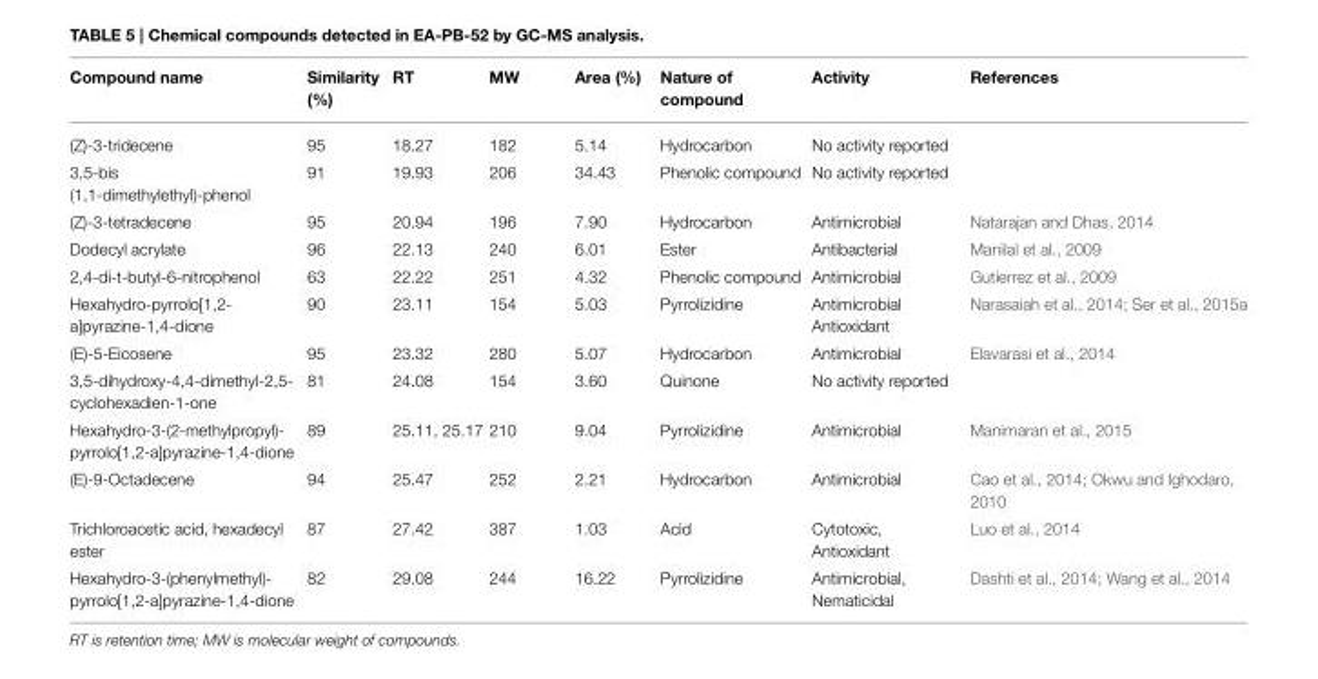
<table><thead><tr><td>Compound name</td><td>Similarity (%)</td><td>RT</td><td>MW</td><td>Area (%)</td><td>Nature of compound</td><td>Activity</td><td>References</td></tr></thead><tbody><tr><td>(Z)-3-tridecene</td><td>95</td><td>18.27</td><td>182</td><td>5.14</td><td>Hydrocarbon</td><td>No activity reported</td><td></td></tr><tr><td>3,5-bis (1,1-dimethylethyl)-phenol</td><td>91</td><td>19.93</td><td>206</td><td>34.43</td><td>Phenolic compound</td><td>No activity reported</td><td></td></tr><tr><td>(Z)-3-tetradecene</td><td>95</td><td>20.94</td><td>196</td><td>7.90</td><td>Hydrocarbon</td><td>Antimicrobial</td><td>Natarajan and Dhas, 2014</td></tr><tr><td>Dodecyl acrylate</td><td>96</td><td>22.13</td><td>240</td><td>6.01</td><td>Ester</td><td>Antibacterial</td><td>Manilal et al., 2009</td></tr><tr><td>2,4-di-t-butyl-6-nitrophenol</td><td>63</td><td>22.22</td><td>251</td><td>4.32</td><td>Phenolic compound</td><td>Antimicrobial</td><td>Gutierrez et al., 2009</td></tr><tr><td>Hexahydro-pyrrolo[1,2- a]pyrazine-1,4-dione</td><td>90</td><td>23.11</td><td>154</td><td>5.03</td><td>Pyrrolizidine</td><td>Antimicrobial Antioxidant</td><td>Narasaiah et al., 2014; Ser et al., 2015a</td></tr><tr><td>(E)-5-Eicosene</td><td>95</td><td>23.32</td><td>280</td><td>5.07</td><td>Hydrocarbon</td><td>Antimicrobial</td><td>Elavarasi et al., 2014</td></tr><tr><td>3,5-dihydroxy-4,4-dimethyl-2,5- cyclohexadien-1-one</td><td>81</td><td>24.08</td><td>154</td><td>3.60</td><td>Quinone</td><td>No activity reported</td><td></td></tr><tr><td>Hexahydro-3-(2-methylpropyl)- pyrrolo[1,2-a]pyrazine-1,4-dione</td><td>89</td><td>25.11, 25.17</td><td>210</td><td>9.04</td><td>Pyrrolizidine</td><td>Antimicrobial</td><td>Manimaran et al., 2015</td></tr><tr><td>(E)-9-Octadecene</td><td>94</td><td>25.47</td><td>252</td><td>2.21</td><td>Hydrocarbon</td><td>Antimicrobial</td><td>Cao et al., 2014; Okwu and Ighodaro, 2010</td></tr><tr><td>Trichloroacetic acid, hexadecyl ester</td><td>87</td><td>27.42</td><td>387</td><td>1.03</td><td>Acid</td><td>Cytotoxic, Antioxidant</td><td>Luo et al., 2014</td></tr><tr><td>Hexahydro-3-(phenylmethyl)- pyrrolo[1,2-a]pyrazine-1,4-dione</td><td>82</td><td>29.08</td><td>244</td><td>16.22</td><td>Pyrrolizidine</td><td>Antimicrobial, Nematicidal</td><td>Dashti et al., 2014; Wang et al., 2014</td></tr></tbody></table>